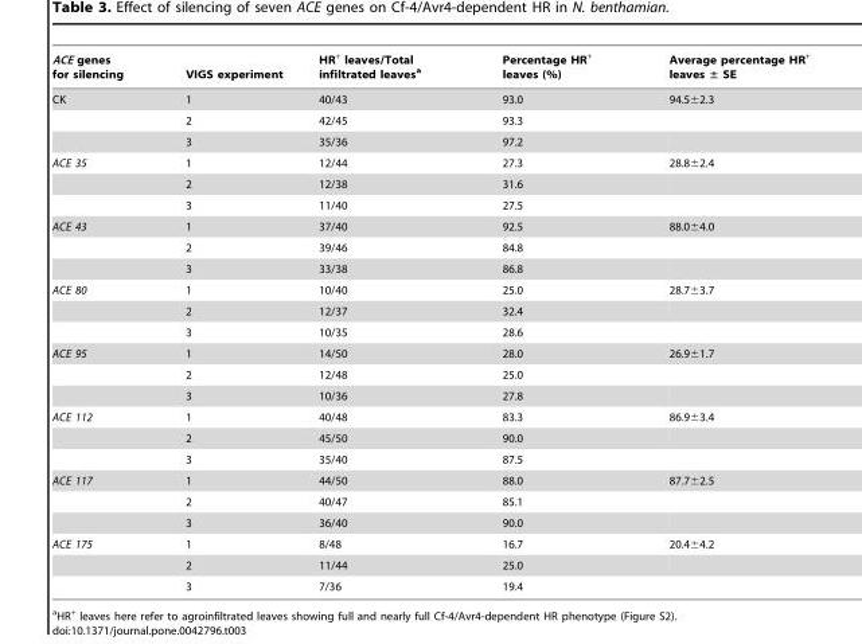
<table><thead><tr><td>ACE genes for silencing</td><td>VIGS experiment</td><td>HR<sup>+</sup> leaves/Total infiltrated leaves<sup>a</sup></td><td>Percentage HR<sup>+</sup> leaves (%)</td><td>Average percentage HR<sup>+</sup> leaves ± SE</td></tr></thead><tbody><tr><td rowspan="3">CK</td><td>1</td><td>40/43</td><td>93.0</td><td>94.5±2.3</td></tr><tr><td>2</td><td>42/45</td><td>93.3</td><td></td></tr><tr><td>3</td><td>35/36</td><td>97.2</td><td></td></tr><tr><td rowspan="3">ACE 35</td><td>1</td><td>12/44</td><td>27.3</td><td>28.8±2.4</td></tr><tr><td>2</td><td>12/38</td><td>31.6</td><td></td></tr><tr><td>3</td><td>11/40</td><td>27.5</td><td></td></tr><tr><td rowspan="3">ACE 43</td><td>1</td><td>37/40</td><td>92.5</td><td>88.0±4.0</td></tr><tr><td>2</td><td>39/46</td><td>84.8</td><td></td></tr><tr><td>3</td><td>33/38</td><td>86.8</td><td></td></tr><tr><td rowspan="3">ACE 80</td><td>1</td><td>10/40</td><td>25.0</td><td>28.7±3.7</td></tr><tr><td>2</td><td>12/37</td><td>32.4</td><td></td></tr><tr><td>3</td><td>10/35</td><td>28.6</td><td></td></tr><tr><td rowspan="3">ACE 95</td><td>1</td><td>14/50</td><td>28.0</td><td>26.9±1.7</td></tr><tr><td>2</td><td>12/48</td><td>25.0</td><td></td></tr><tr><td>3</td><td>10/36</td><td>27.8</td><td></td></tr><tr><td rowspan="3">ACE 112</td><td>1</td><td>40/48</td><td>83.3</td><td>86.9±3.4</td></tr><tr><td>2</td><td>45/50</td><td>90.0</td><td></td></tr><tr><td>3</td><td>35/40</td><td>87.5</td><td></td></tr><tr><td rowspan="3">ACE 117</td><td>1</td><td>44/50</td><td>88.0</td><td>87.7±2.5</td></tr><tr><td>2</td><td>40/47</td><td>85.1</td><td></td></tr><tr><td>3</td><td>36/40</td><td>90.0</td><td></td></tr><tr><td rowspan="3">ACE 175</td><td>1</td><td>8/48</td><td>16.7</td><td>20.4±4.2</td></tr><tr><td>2</td><td>11/44</td><td>25.0</td><td></td></tr><tr><td>3</td><td>7/36</td><td>19.4</td><td></td></tr></tbody></table>